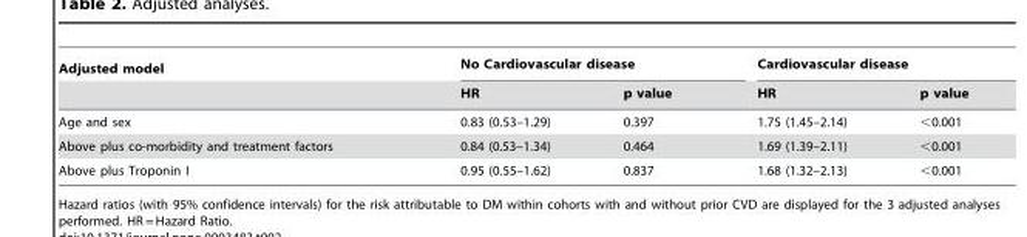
<table><thead><tr><td rowspan="2">Adjusted model</td><td colspan="2">No Cardiovascular disease</td><td colspan="2">Cardiovascular disease</td></tr><tr><td>HR</td><td>p value</td><td>HR</td><td>p value</td></tr></thead><tbody><tr><td>Age and sex</td><td>0.83 (0.53–1.29)</td><td>0.397</td><td>1.75 (1.45–2.14)</td><td>&lt;0.001</td></tr><tr><td>Above plus co-morbidity and treatment factors</td><td>0.84 (0.53–1.34)</td><td>0.464</td><td>1.69 (1.39–2.11)</td><td>&lt;0.001</td></tr><tr><td>Above plus Troponin I</td><td>0.95 (0.55–1.62)</td><td>0.837</td><td>1.68 (1.32–2.13)</td><td>&lt;0.001</td></tr></tbody></table>